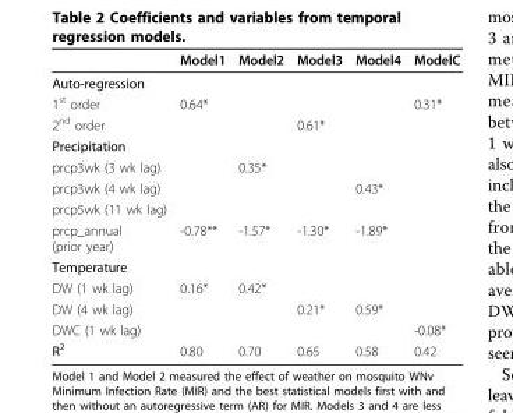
<table><thead><tr><td></td><td>Model1</td><td>Model2</td><td>Model3</td><td>Model4</td><td>ModelC</td></tr></thead><tbody><tr><td colspan="6">Auto-regression</td></tr><tr><td>1<sup>st</sup> order</td><td>0.64*</td><td></td><td></td><td></td><td>0.31*</td></tr><tr><td>2<sup>nd</sup> order</td><td></td><td></td><td>0.61*</td><td></td><td></td></tr><tr><td colspan="6">Precipitation</td></tr><tr><td>prcp3wk (3 wk lag)</td><td></td><td>0.35*</td><td></td><td></td><td></td></tr><tr><td>prcp3wk (4 wk lag)</td><td></td><td></td><td></td><td>0.43*</td><td></td></tr><tr><td colspan="6">prcp5wk (11 wk lag)</td></tr><tr><td>prcp_annual (prior year)</td><td>-0.78**</td><td>-1.57*</td><td>-1.30*</td><td>-1.89*</td><td></td></tr><tr><td colspan="6">Temperature</td></tr><tr><td>DW (1 wk lag)</td><td>0.16*</td><td>0.42*</td><td></td><td></td><td></td></tr><tr><td>DW (4 wk lag)</td><td></td><td></td><td>0.21*</td><td>0.59*</td><td></td></tr><tr><td>DWC (1 wk lag)</td><td></td><td></td><td></td><td></td><td>-0.08*</td></tr><tr><td>R<sup>2</sup></td><td>0.80</td><td>0.70</td><td>0.65</td><td>0.58</td><td>0.42</td></tr></tbody></table>